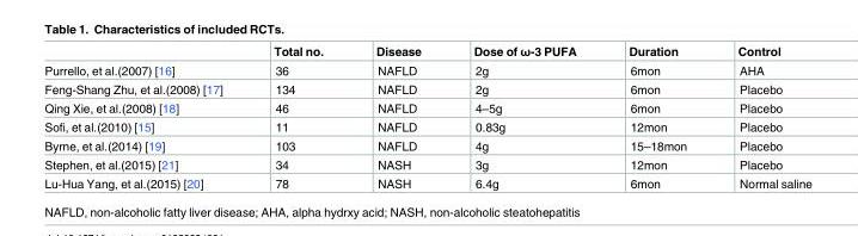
<table><thead><tr><td></td><td>Total no.</td><td>Disease</td><td>Dose of ω-3 PUFA</td><td>Duration</td><td>Control</td></tr></thead><tbody><tr><td>Purrello, et al.(2007) [16]</td><td>36</td><td>NAFLD</td><td>2g</td><td>6mon</td><td>AHA</td></tr><tr><td>Feng-Shang Zhu, et al.(2008) [17]</td><td>134</td><td>NAFLD</td><td>2g</td><td>6mon</td><td>Placebo</td></tr><tr><td>Qing Xie, et al.(2008) [18]</td><td>46</td><td>NAFLD</td><td>4–5g</td><td>6mon</td><td>Placebo</td></tr><tr><td>Sofi, et al.(2010) [15]</td><td>11</td><td>NAFLD</td><td>0.83g</td><td>12mon</td><td>Placebo</td></tr><tr><td>Byrne, et al.(2014) [19]</td><td>103</td><td>NAFLD</td><td>4g</td><td>15–18mon</td><td>Placebo</td></tr><tr><td>Stephen, et al.(2015) [21]</td><td>34</td><td>NASH</td><td>3g</td><td>12mon</td><td>Placebo</td></tr><tr><td>Lu-Hua Yang, et al.(2015) [20]</td><td>78</td><td>NASH</td><td>6.4g</td><td>6mon</td><td>Normal saline</td></tr></tbody></table>